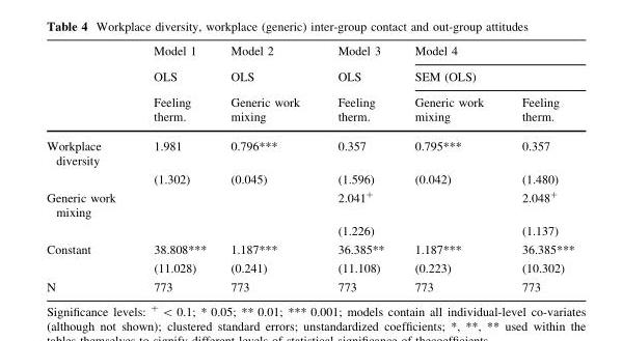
<table><thead><tr><td rowspan="3"></td><td rowspan="3">Model 1 OLS Feeling therm.</td><td rowspan="3">Model 2 OLS Generic work mixing</td><td rowspan="3">Model 3 OLS Feeling therm.</td><td rowspan="2" colspan="2">Model 4 SEM (OLS)</td></tr><tr></tr><tr><td>Generic work mixing</td><td>Feeling therm.</td></tr></thead><tbody><tr><td rowspan="2">Workplace diversity</td><td>1.981</td><td>0.796***</td><td>0.357</td><td>0.795***</td><td>0.357</td></tr><tr><td>(1.302)</td><td>(0.045)</td><td>(1.596)</td><td>(0.042)</td><td>(1.480)</td></tr><tr><td rowspan="2">Generic work mixing</td><td></td><td></td><td>2.041<sup>+</sup></td><td></td><td>2.048<sup>+</sup></td></tr><tr><td></td><td></td><td>(1.226)</td><td></td><td>(1.137)</td></tr><tr><td rowspan="2">Constant</td><td>38.808***</td><td>1.187***</td><td>36.385**</td><td>1.187***</td><td>36.385***</td></tr><tr><td>(11.028)</td><td>(0.241)</td><td>(11.108)</td><td>(0.223)</td><td>(10.302)</td></tr><tr><td>N</td><td>773</td><td>773</td><td>773</td><td>773</td><td>773</td></tr></tbody></table>